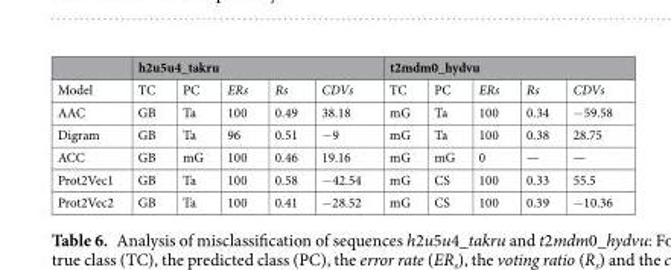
<table><thead><tr><td rowspan="2">Model</td><td colspan="5">h2u5u4_takru</td><td colspan="5">t2mdm0_hydvu</td></tr><tr><td>TC</td><td>PC</td><td>ERs</td><td>Rs</td><td>CDVs</td><td>TC</td><td>PC</td><td>ERs</td><td>Rs</td><td>CDVs</td></tr></thead><tbody><tr><td>AAC</td><td>GB</td><td>Ta</td><td>100</td><td>0.49</td><td>38.18</td><td>mG</td><td>Ta</td><td>100</td><td>0.34</td><td>−59.58</td></tr><tr><td>Digram</td><td>GB</td><td>Ta</td><td>96</td><td>0.51</td><td>−9</td><td>mG</td><td>Ta</td><td>100</td><td>0.38</td><td>28.75</td></tr><tr><td>ACC</td><td>GB</td><td>mG</td><td>100</td><td>0.46</td><td>19.16</td><td>mG</td><td>mG</td><td>0</td><td>—</td><td>—</td></tr><tr><td>Prot2Vec1</td><td>GB</td><td>Ta</td><td>100</td><td>0.58</td><td>−42.54</td><td>mG</td><td>CS</td><td>100</td><td>0.33</td><td>55.5</td></tr><tr><td>Prot2Vec2</td><td>GB</td><td>Ta</td><td>100</td><td>0.41</td><td>−28.52</td><td>mG</td><td>CS</td><td>100</td><td>0.39</td><td>−10.36</td></tr></tbody></table>